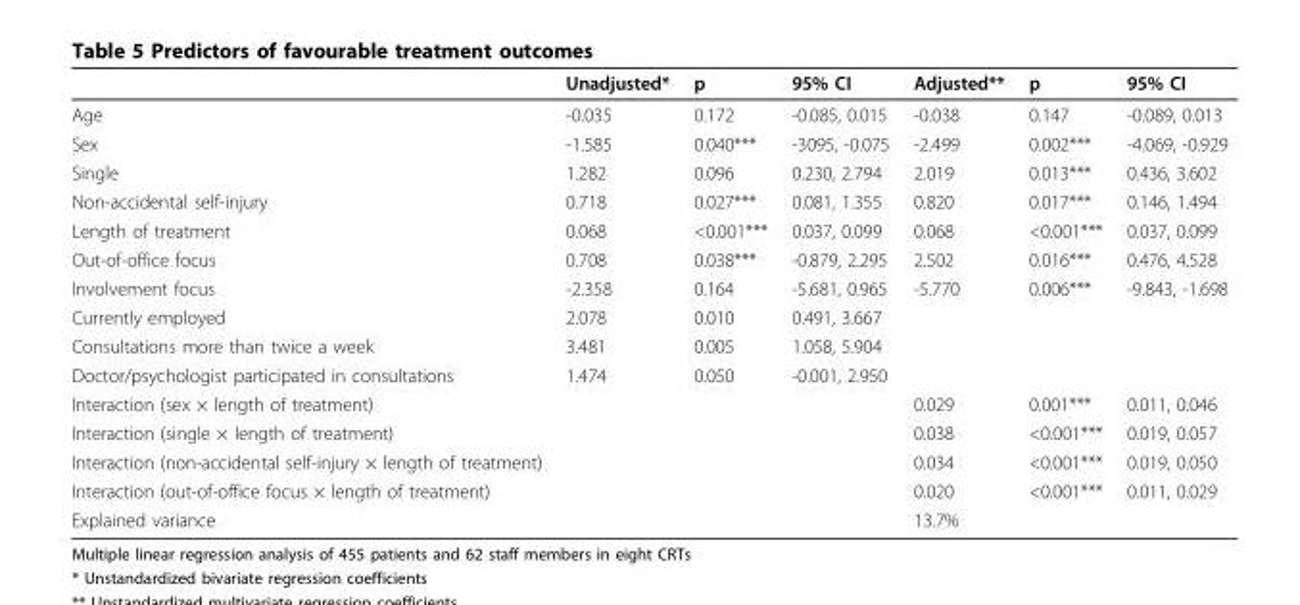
<table><thead><tr><td></td><td>Unadjusted*</td><td>p</td><td>95% CI</td><td>Adjusted**</td><td>p</td><td>95% CI</td></tr></thead><tbody><tr><td>Age</td><td>-0.035</td><td>0.172</td><td>-0.085, 0.015</td><td>-0.038</td><td>0.147</td><td>-0.089, 0.013</td></tr><tr><td>Sex</td><td>-1.585</td><td>0.040***</td><td>-3095, -0.075</td><td>-2.499</td><td>0.002***</td><td>-4.069, -0.929</td></tr><tr><td>Single</td><td>1.282</td><td>0.096</td><td>0.230, 2.794</td><td>2.019</td><td>0.013***</td><td>0.436, 3.602</td></tr><tr><td>Non-accidental self-injury</td><td>0.718</td><td>0.027***</td><td>0.081, 1.355</td><td>0.820</td><td>0.017***</td><td>0.146, 1.494</td></tr><tr><td>Length of treatment</td><td>0.068</td><td>&lt;0.001***</td><td>0.037, 0.099</td><td>0.068</td><td>&lt;0.001***</td><td>0.037, 0.099</td></tr><tr><td>Out-of-office focus</td><td>0.708</td><td>0.038***</td><td>-0.879, 2.295</td><td>2.502</td><td>0.016***</td><td>0.476, 4.528</td></tr><tr><td>Involvement focus</td><td>-2.358</td><td>0.164</td><td>-5.681, 0.965</td><td>-5.770</td><td>0.006***</td><td>-9.843, -1.698</td></tr><tr><td>Currently employed</td><td>2.078</td><td>0.010</td><td>0.491, 3.667</td><td></td><td></td><td></td></tr><tr><td>Consultations more than twice a week</td><td>3.481</td><td>0.005</td><td>1.058, 5.904</td><td></td><td></td><td></td></tr><tr><td>Doctor/psychologist participated in consultations</td><td>1.474</td><td>0.050</td><td>-0.001, 2.950</td><td></td><td></td><td></td></tr><tr><td>Interaction (sex × length of treatment)</td><td></td><td></td><td></td><td>0.029</td><td>0.001***</td><td>0.011, 0.046</td></tr><tr><td>Interaction (single × length of treatment)</td><td></td><td></td><td></td><td>0.038</td><td>&lt;0.001***</td><td>0.019, 0.057</td></tr><tr><td>Interaction (non-accidental self-injury × length of treatment)</td><td></td><td></td><td></td><td>0.034</td><td>&lt;0.001***</td><td>0.019, 0.050</td></tr><tr><td>Interaction (out-of-office focus × length of treatment)</td><td></td><td></td><td></td><td>0.020</td><td>&lt;0.001***</td><td>0.011, 0.029</td></tr><tr><td>Explained variance</td><td></td><td></td><td></td><td>13.7%</td><td></td><td></td></tr></tbody></table>